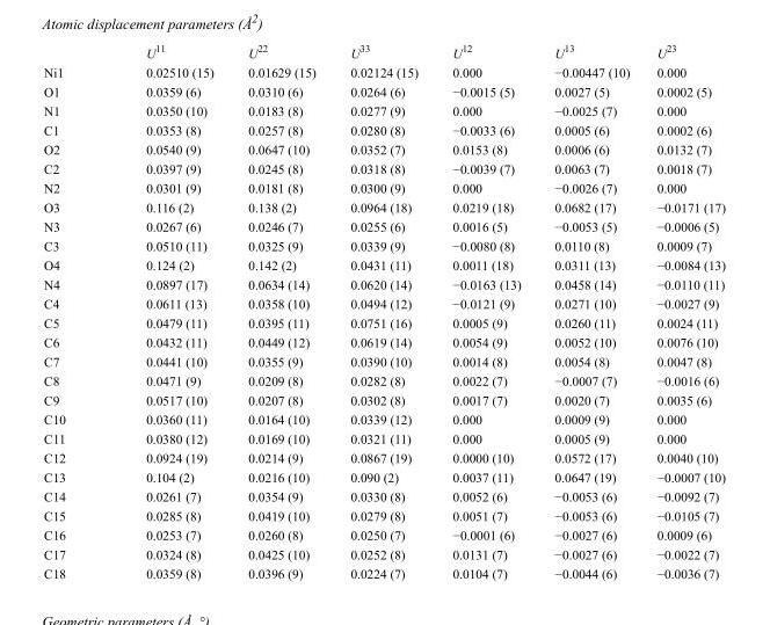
<table><thead><tr><td></td><td>U<sup>11</sup></td><td>U<sup>22</sup></td><td>U<sup>33</sup></td><td>U<sup>12</sup></td><td>U<sup>13</sup></td><td>U<sup>23</sup></td></tr></thead><tbody><tr><td>Ni1</td><td>0.02510 (15)</td><td>0.01629 (15)</td><td>0.02124 (15)</td><td>0.000</td><td>−0.00447 (10)</td><td>0.000</td></tr><tr><td>O1</td><td>0.0359 (6)</td><td>0.0310 (6)</td><td>0.0264 (6)</td><td>−0.0015 (5)</td><td>0.0027 (5)</td><td>0.0002 (5)</td></tr><tr><td>N1</td><td>0.0350 (10)</td><td>0.0183 (8)</td><td>0.0277 (9)</td><td>0.000</td><td>−0.0025 (7)</td><td>0.000</td></tr><tr><td>C1</td><td>0.0353 (8)</td><td>0.0257 (8)</td><td>0.0280 (8)</td><td>−0.0033 (6)</td><td>0.0005 (6)</td><td>0.0002 (6)</td></tr><tr><td>O2</td><td>0.0540 (9)</td><td>0.0647 (10)</td><td>0.0352 (7)</td><td>0.0153 (8)</td><td>0.0006 (6)</td><td>0.0132 (7)</td></tr><tr><td>C2</td><td>0.0397 (9)</td><td>0.0245 (8)</td><td>0.0318 (8)</td><td>−0.0039 (7)</td><td>0.0063 (7)</td><td>0.0018 (7)</td></tr><tr><td>N2</td><td>0.0301 (9)</td><td>0.0181 (8)</td><td>0.0300 (9)</td><td>0.000</td><td>−0.0026 (7)</td><td>0.000</td></tr><tr><td>O3</td><td>0.116 (2)</td><td>0.138 (2)</td><td>0.0964 (18)</td><td>0.0219 (18)</td><td>0.0682 (17)</td><td>−0.0171 (17)</td></tr><tr><td>N3</td><td>0.0267 (6)</td><td>0.0246 (7)</td><td>0.0255 (6)</td><td>0.0016 (5)</td><td>−0.0053 (5)</td><td>−0.0006 (5)</td></tr><tr><td>C3</td><td>0.0510 (11)</td><td>0.0325 (9)</td><td>0.0339 (9)</td><td>−0.0080 (8)</td><td>0.0110 (8)</td><td>0.0009 (7)</td></tr><tr><td>O4</td><td>0.124 (2)</td><td>0.142 (2)</td><td>0.0431 (11)</td><td>0.0011 (18)</td><td>0.0311 (13)</td><td>−0.0084 (13)</td></tr><tr><td>N4</td><td>0.0897 (17)</td><td>0.0634 (14)</td><td>0.0620 (14)</td><td>−0.0163 (13)</td><td>0.0458 (14)</td><td>−0.0110 (11)</td></tr><tr><td>C4</td><td>0.0611 (13)</td><td>0.0358 (10)</td><td>0.0494 (12)</td><td>−0.0121 (9)</td><td>0.0271 (10)</td><td>−0.0027 (9)</td></tr><tr><td>C5</td><td>0.0479 (11)</td><td>0.0395 (11)</td><td>0.0751 (16)</td><td>0.0005 (9)</td><td>0.0260 (11)</td><td>0.0024 (11)</td></tr><tr><td>C6</td><td>0.0432 (11)</td><td>0.0449 (12)</td><td>0.0619 (14)</td><td>0.0054 (9)</td><td>0.0052 (10)</td><td>0.0076 (10)</td></tr><tr><td>C7</td><td>0.0441 (10)</td><td>0.0355 (9)</td><td>0.0390 (10)</td><td>0.0014 (8)</td><td>0.0054 (8)</td><td>0.0047 (8)</td></tr><tr><td>C8</td><td>0.0471 (9)</td><td>0.0209 (8)</td><td>0.0282 (8)</td><td>0.0022 (7)</td><td>−0.0007 (7)</td><td>−0.0016 (6)</td></tr><tr><td>C9</td><td>0.0517 (10)</td><td>0.0207 (8)</td><td>0.0302 (8)</td><td>0.0017 (7)</td><td>0.0020 (7)</td><td>0.0035 (6)</td></tr><tr><td>C10</td><td>0.0360 (11)</td><td>0.0164 (10)</td><td>0.0339 (12)</td><td>0.000</td><td>0.0009 (9)</td><td>0.000</td></tr><tr><td>C11</td><td>0.0380 (12)</td><td>0.0169 (10)</td><td>0.0321 (11)</td><td>0.000</td><td>0.0005 (9)</td><td>0.000</td></tr><tr><td>C12</td><td>0.0924 (19)</td><td>0.0214 (9)</td><td>0.0867 (19)</td><td>0.0000 (10)</td><td>0.0572 (17)</td><td>0.0040 (10)</td></tr><tr><td>C13</td><td>0.104 (2)</td><td>0.0216 (10)</td><td>0.090 (2)</td><td>0.0037 (11)</td><td>0.0647 (19)</td><td>−0.0007 (10)</td></tr><tr><td>C14</td><td>0.0261 (7)</td><td>0.0354 (9)</td><td>0.0330 (8)</td><td>0.0052 (6)</td><td>−0.0053 (6)</td><td>−0.0092 (7)</td></tr><tr><td>C15</td><td>0.0285 (8)</td><td>0.0419 (10)</td><td>0.0279 (8)</td><td>0.0051 (7)</td><td>−0.0053 (6)</td><td>−0.0105 (7)</td></tr><tr><td>C16</td><td>0.0253 (7)</td><td>0.0260 (8)</td><td>0.0250 (7)</td><td>−0.0001 (6)</td><td>−0.0027 (6)</td><td>0.0009 (6)</td></tr><tr><td>C17</td><td>0.0324 (8)</td><td>0.0425 (10)</td><td>0.0252 (8)</td><td>0.0131 (7)</td><td>−0.0027 (6)</td><td>−0.0022 (7)</td></tr><tr><td>C18</td><td>0.0359 (8)</td><td>0.0396 (9)</td><td>0.0224 (7)</td><td>0.0104 (7)</td><td>−0.0044 (6)</td><td>−0.0036 (7)</td></tr></tbody></table>